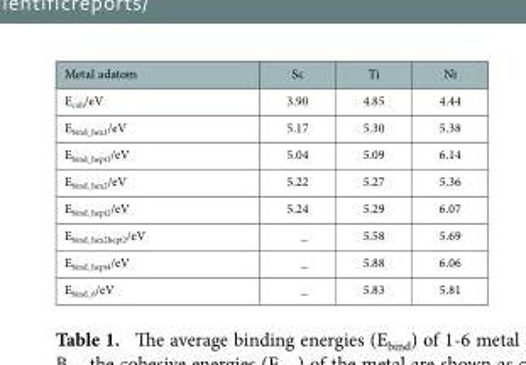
<table><thead><tr><td>Metal adatom</td><td>Sc</td><td>Ti</td><td>Ni</td></tr></thead><tbody><tr><td>E<sub>coh</sub>/eV</td><td>3.90</td><td>4.85</td><td>4.44</td></tr><tr><td>E<sub>bind_hex1</sub>/eV</td><td>5.17</td><td>5.30</td><td>5.38</td></tr><tr><td>E<sub>bind_hept1</sub>/eV</td><td>5.04</td><td>5.09</td><td>6.14</td></tr><tr><td>E<sub>bind_hex2</sub>/eV</td><td>5.22</td><td>5.27</td><td>5.36</td></tr><tr><td>E<sub>bind_hept2</sub>/eV</td><td>5.24</td><td>5.29</td><td>6.07</td></tr><tr><td>E<sub>bind_hex2hept2</sub>/eV</td><td>_</td><td>5.58</td><td>5.69</td></tr><tr><td>E<sub>bind_hept4</sub>/eV</td><td>_</td><td>5.88</td><td>6.06</td></tr><tr><td>E<sub>bind_6</sub>/eV</td><td>_</td><td>5.83</td><td>5.81</td></tr></tbody></table>